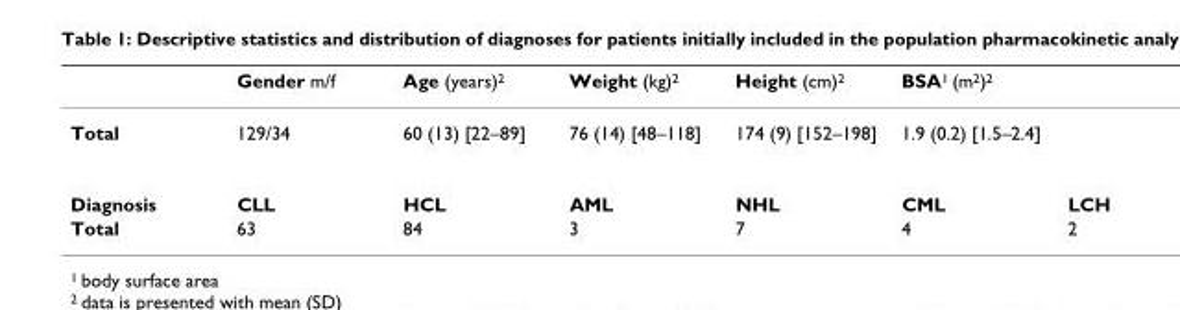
<table><thead><tr><td></td><td>Gender m/f</td><td>Age (years)<sup>2</sup></td><td>Weight (kg)<sup>2</sup></td><td>Height (cm)<sup>2</sup></td><td>BSA<sup>1</sup> (m<sup>2</sup>)<sup>2</sup></td><td></td></tr></thead><tbody><tr><td>Total</td><td>129/34</td><td>60 (13) [22–89]</td><td>76 (14) [48–118]</td><td>174 (9) [152–198]</td><td>1.9 (0.2) [1.5–2.4]</td><td></td></tr><tr><td>Diagnosis</td><td>CLL</td><td>HCL</td><td>AML</td><td>NHL</td><td>CML</td><td>LCH</td></tr><tr><td>Total</td><td>63</td><td>84</td><td>3</td><td>7</td><td>4</td><td>2</td></tr></tbody></table>